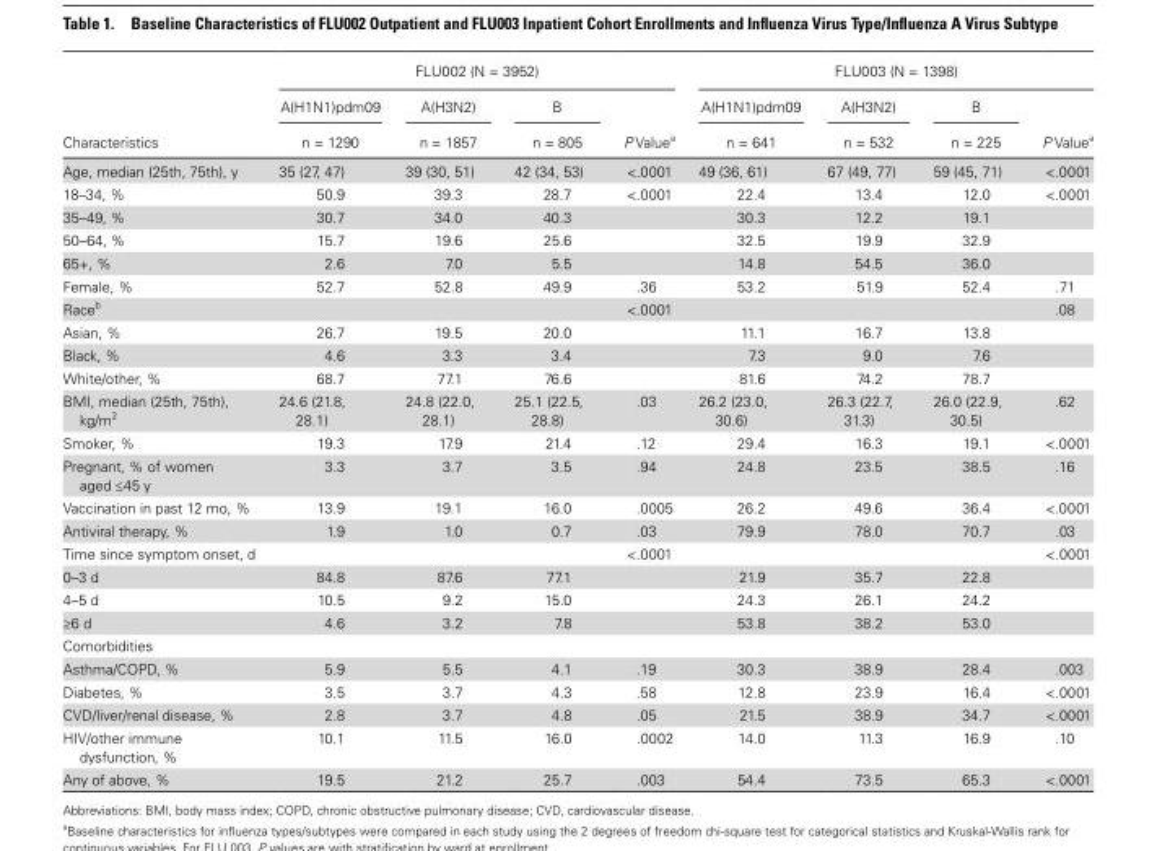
<table><thead><tr><td rowspan="3">Characteristics</td><td colspan="4">FLU002 (N = 3952)</td><td colspan="4">FLU003 (N = 1398)</td></tr><tr><td rowspan="2">A(H1N1)pdm09 n = 1290</td><td rowspan="2">A(H3N2) n = 1857</td><td rowspan="2">B n = 805</td><td rowspan="2">P Value<sup>a</sup></td><td rowspan="2">A(H1N1)pdm09 n = 641</td><td rowspan="2">A(H3N2) n = 532</td><td rowspan="2">B n = 225</td><td rowspan="2">P Value<sup>a</sup></td></tr><tr></tr></thead><tbody><tr><td>Age, median (25th, 75th), y</td><td>35 (27, 47)</td><td>39 (30, 51)</td><td>42 (34, 53)</td><td>&lt;.0001</td><td>49 (36, 61)</td><td>67 (49, 77)</td><td>59 (45, 71)</td><td>&lt;.0001</td></tr><tr><td>18–34, %</td><td>50.9</td><td>39.3</td><td>28.7</td><td>&lt;.0001</td><td>22.4</td><td>13.4</td><td>12.0</td><td>&lt;.0001</td></tr><tr><td>35–49, %</td><td>30.7</td><td>34.0</td><td>40.3</td><td></td><td>30.3</td><td>12.2</td><td>19.1</td><td></td></tr><tr><td>50–64, %</td><td>15.7</td><td>19.6</td><td>25.6</td><td></td><td>32.5</td><td>19.9</td><td>32.9</td><td></td></tr><tr><td>65+, %</td><td>2.6</td><td>7.0</td><td>5.5</td><td></td><td>14.8</td><td>54.5</td><td>36.0</td><td></td></tr><tr><td>Female, %</td><td>52.7</td><td>52.8</td><td>49.9</td><td>.36</td><td>53.2</td><td>51.9</td><td>52.4</td><td>.71</td></tr><tr><td>Race<sup>b</sup></td><td></td><td></td><td></td><td>&lt;.0001</td><td></td><td></td><td></td><td>.08</td></tr><tr><td>Asian, %</td><td>26.7</td><td>19.5</td><td>20.0</td><td></td><td>11.1</td><td>16.7</td><td>13.8</td><td></td></tr><tr><td>Black, %</td><td>4.6</td><td>3.3</td><td>3.4</td><td></td><td>7.3</td><td>9.0</td><td>7.6</td><td></td></tr><tr><td>White/other, %</td><td>68.7</td><td>77.1</td><td>76.6</td><td></td><td>81.6</td><td>74.2</td><td>78.7</td><td></td></tr><tr><td>BMI, median (25th, 75th), kg/m<sup>2</sup></td><td>24.6 (21.8, 28.1)</td><td>24.8 (22.0, 28.1)</td><td>25.1 (22.5, 28.8)</td><td>.03</td><td>26.2 (23.0, 30.6)</td><td>26.3 (22.7, 31.3)</td><td>26.0 (22.9, 30.5)</td><td>.62</td></tr><tr><td>Smoker, %</td><td>19.3</td><td>17.9</td><td>21.4</td><td>.12</td><td>29.4</td><td>16.3</td><td>19.1</td><td>&lt;.0001</td></tr><tr><td>Pregnant, % of women aged ≤45 y</td><td>3.3</td><td>3.7</td><td>3.5</td><td>.94</td><td>24.8</td><td>23.5</td><td>38.5</td><td>.16</td></tr><tr><td>Vaccination in past 12 mo, %</td><td>13.9</td><td>19.1</td><td>16.0</td><td>.0005</td><td>26.2</td><td>49.6</td><td>36.4</td><td>&lt;.0001</td></tr><tr><td>Antiviral therapy, %</td><td>1.9</td><td>1.0</td><td>0.7</td><td>.03</td><td>79.9</td><td>78.0</td><td>70.7</td><td>.03</td></tr><tr><td>Time since symptom onset, d</td><td></td><td></td><td></td><td>&lt;.0001</td><td></td><td></td><td></td><td>&lt;.0001</td></tr><tr><td>0–3 d</td><td>84.8</td><td>87.6</td><td>77.1</td><td></td><td>21.9</td><td>35.7</td><td>22.8</td><td></td></tr><tr><td>4–5 d</td><td>10.5</td><td>9.2</td><td>15.0</td><td></td><td>24.3</td><td>26.1</td><td>24.2</td><td></td></tr><tr><td>≥6 d</td><td>4.6</td><td>3.2</td><td>7.8</td><td></td><td>53.8</td><td>38.2</td><td>53.0</td><td></td></tr><tr><td colspan="9">Comorbidities</td></tr><tr><td>Asthma/COPD, %</td><td>5.9</td><td>5.5</td><td>4.1</td><td>.19</td><td>30.3</td><td>38.9</td><td>28.4</td><td>.003</td></tr><tr><td>Diabetes, %</td><td>3.5</td><td>3.7</td><td>4.3</td><td>.58</td><td>12.8</td><td>23.9</td><td>16.4</td><td>&lt;.0001</td></tr><tr><td>CVD/liver/renal disease, %</td><td>2.8</td><td>3.7</td><td>4.8</td><td>.05</td><td>21.5</td><td>38.9</td><td>34.7</td><td>&lt;.0001</td></tr><tr><td>HIV/other immune dysfunction, %</td><td>10.1</td><td>11.5</td><td>16.0</td><td>.0002</td><td>14.0</td><td>11.3</td><td>16.9</td><td>.10</td></tr><tr><td>Any of above, %</td><td>19.5</td><td>21.2</td><td>25.7</td><td>.003</td><td>54.4</td><td>73.5</td><td>65.3</td><td>&lt;.0001</td></tr></tbody></table>